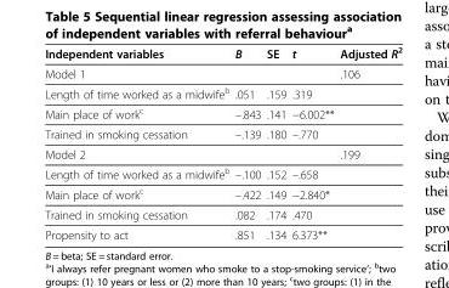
<table><thead><tr><td>Independent variables</td><td>B</td><td>SE</td><td>t</td><td>Adjusted R<sup>2</sup></td></tr></thead><tbody><tr><td colspan="4">Model 1</td><td>.106</td></tr><tr><td>Length of time worked as a midwife<sup>b</sup></td><td>.051</td><td>.159</td><td>.319</td><td></td></tr><tr><td>Main place of work<sup>c</sup></td><td>–.843</td><td>.141</td><td>−6.002**</td><td></td></tr><tr><td>Trained in smoking cessation</td><td>–.139</td><td>.180</td><td>–.770</td><td></td></tr><tr><td colspan="4">Model 2</td><td>.199</td></tr><tr><td>Length of time worked as a midwife<sup>b</sup></td><td>–.100</td><td>.152</td><td>–.658</td><td></td></tr><tr><td>Main place of work<sup>c</sup></td><td>–.422</td><td>.149</td><td>−2.840*</td><td></td></tr><tr><td>Trained in smoking cessation</td><td>.082</td><td>.174</td><td>.470</td><td></td></tr><tr><td>Propensity to act</td><td>.851</td><td>.134</td><td>6.373**</td><td></td></tr></tbody></table>